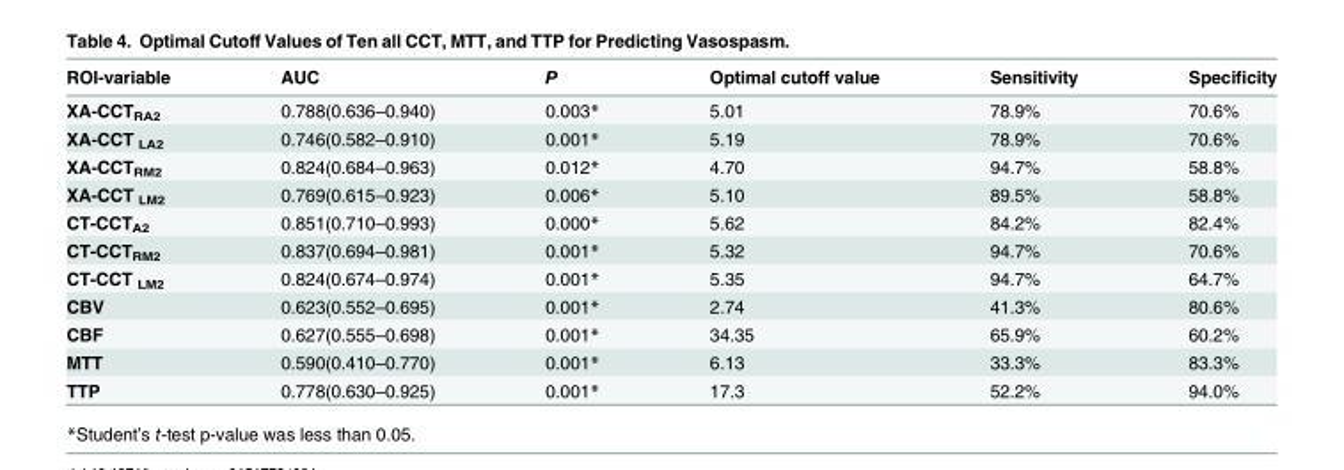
<table><thead><tr><td>ROI-variable</td><td>AUC</td><td>P</td><td>Optimal cutoff value</td><td>Sensitivity</td><td>Specificity</td></tr></thead><tbody><tr><td>XA-CCT<sub>RA2</sub></td><td>0.788(0.636–0.940)</td><td>0.003*</td><td>5.01</td><td>78.9%</td><td>70.6%</td></tr><tr><td>XA-CCT <sub>LA2</sub></td><td>0.746(0.582–0.910)</td><td>0.001*</td><td>5.19</td><td>78.9%</td><td>70.6%</td></tr><tr><td>XA-CCT<sub>RM2</sub></td><td>0.824(0.684–0.963)</td><td>0.012*</td><td>4.70</td><td>94.7%</td><td>58.8%</td></tr><tr><td>XA-CCT <sub>LM2</sub></td><td>0.769(0.615–0.923)</td><td>0.006*</td><td>5.10</td><td>89.5%</td><td>58.8%</td></tr><tr><td>CT-CCT<sub>A2</sub></td><td>0.851(0.710–0.993)</td><td>0.000*</td><td>5.62</td><td>84.2%</td><td>82.4%</td></tr><tr><td>CT-CCT<sub>RM2</sub></td><td>0.837(0.694–0.981)</td><td>0.001*</td><td>5.32</td><td>94.7%</td><td>70.6%</td></tr><tr><td>CT-CCT <sub>LM2</sub></td><td>0.824(0.674–0.974)</td><td>0.001*</td><td>5.35</td><td>94.7%</td><td>64.7%</td></tr><tr><td>CBV</td><td>0.623(0.552–0.695)</td><td>0.001*</td><td>2.74</td><td>41.3%</td><td>80.6%</td></tr><tr><td>CBF</td><td>0.627(0.555–0.698)</td><td>0.001*</td><td>34.35</td><td>65.9%</td><td>60.2%</td></tr><tr><td>MTT</td><td>0.590(0.410–0.770)</td><td>0.001*</td><td>6.13</td><td>33.3%</td><td>83.3%</td></tr><tr><td>TTP</td><td>0.778(0.630–0.925)</td><td>0.001*</td><td>17.3</td><td>52.2%</td><td>94.0%</td></tr></tbody></table>